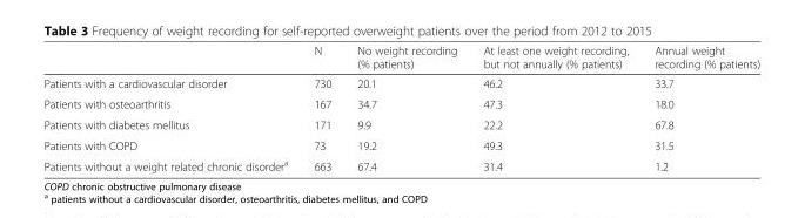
<table><thead><tr><td></td><td>N</td><td>No weight recording (% patients)</td><td>At least one weight recording, but not annually (% patients)</td><td>Annual weight recording (% patients)</td></tr></thead><tbody><tr><td>Patients with a cardiovascular disorder</td><td>730</td><td>20.1</td><td>46.2</td><td>33.7</td></tr><tr><td>Patients with osteoarthritis</td><td>167</td><td>34.7</td><td>47.3</td><td>18.0</td></tr><tr><td>Patients with diabetes mellitus</td><td>171</td><td>9.9</td><td>22.2</td><td>67.8</td></tr><tr><td>Patients with COPD</td><td>73</td><td>19.2</td><td>49.3</td><td>31.5</td></tr><tr><td>Patients without a weight related chronic disorder<sup>a</sup></td><td>663</td><td>67.4</td><td>31.4</td><td>1.2</td></tr></tbody></table>